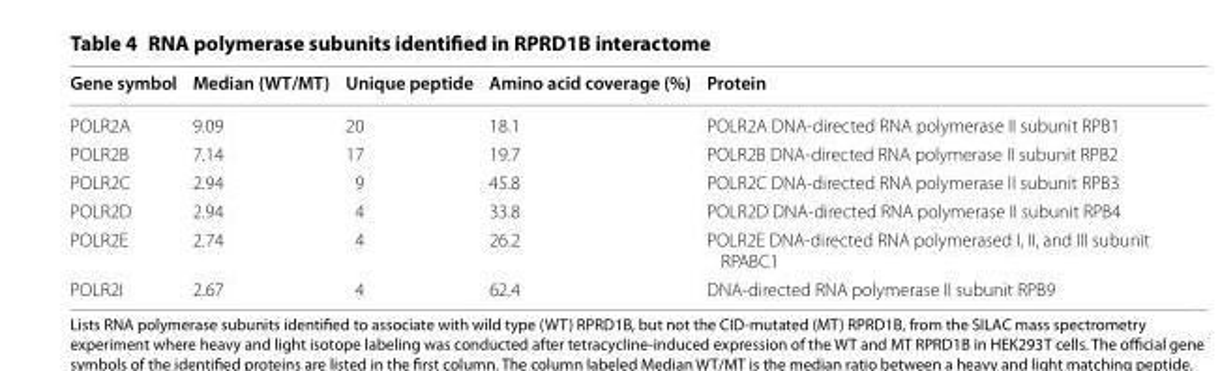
<table><thead><tr><td>Gene symbol</td><td>Median (WT/MT)</td><td>Unique peptide</td><td>Amino acid coverage (%)</td><td>Protein</td></tr></thead><tbody><tr><td>POLR2A</td><td>9.09</td><td>20</td><td>18.1</td><td>POLR2A DNA‑directed RNA polymerase II subunit RPB1</td></tr><tr><td>POLR2B</td><td>7.14</td><td>17</td><td>19.7</td><td>POLR2B DNA‑directed RNA polymerase II subunit RPB2</td></tr><tr><td>POLR2C</td><td>2.94</td><td>9</td><td>45.8</td><td>POLR2C DNA‑directed RNA polymerase II subunit RPB3</td></tr><tr><td>POLR2D</td><td>2.94</td><td>4</td><td>33.8</td><td>POLR2D DNA‑directed RNA polymerase II subunit RPB4</td></tr><tr><td>POLR2E</td><td>2.74</td><td>4</td><td>26.2</td><td>POLR2E DNA‑directed RNA polymerased I, II, and III subunit RPABC1</td></tr><tr><td>POLR2I</td><td>2.67</td><td>4</td><td>62.4</td><td>DNA‑directed RNA polymerase II subunit RPB9</td></tr></tbody></table>